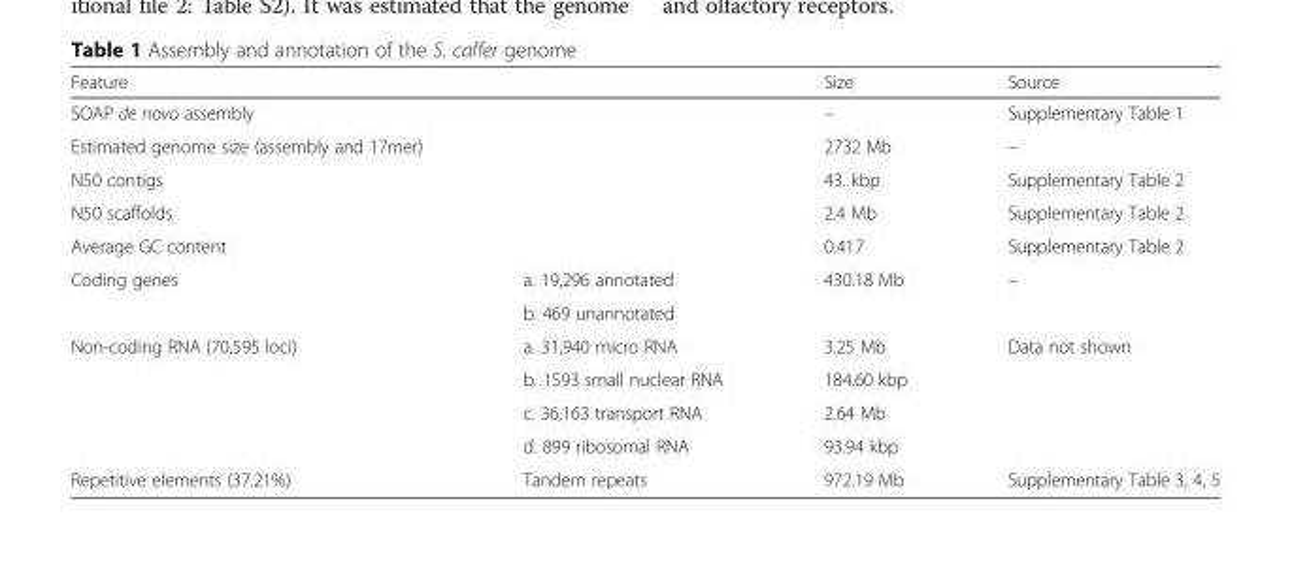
<table><thead><tr><td>Feature</td><td></td><td>Size</td><td>Source</td></tr></thead><tbody><tr><td>SOAP de novo assembly</td><td></td><td>–</td><td>Supplementary Table 1</td></tr><tr><td>Estimated genome size (assembly and 17mer)</td><td></td><td>2732 Mb</td><td>–</td></tr><tr><td>N50 contigs</td><td></td><td>43. kbp</td><td>Supplementary Table 2</td></tr><tr><td>N50 scaffolds</td><td></td><td>2.4 Mb</td><td>Supplementary Table 2</td></tr><tr><td>Average GC content</td><td></td><td>0.417</td><td>Supplementary Table 2</td></tr><tr><td rowspan="2">Coding genes</td><td>a. 19,296 annotated</td><td>430.18 Mb</td><td>–</td></tr><tr><td>b. 469 unannotated</td><td></td><td></td></tr><tr><td rowspan="4">Non-coding RNA (70,595 loci)</td><td>a. 31,940 micro RNA</td><td>3.25 Mb</td><td>Data not shown</td></tr><tr><td>b. 1593 small nuclear RNA</td><td>184.60 kbp</td><td></td></tr><tr><td>c. 36,163 transport RNA</td><td>2.64 Mb</td><td></td></tr><tr><td>d. 899 ribosomal RNA</td><td>93.94 kbp</td><td></td></tr><tr><td>Repetitive elements (37.21%)</td><td>Tandem repeats</td><td>972.19 Mb</td><td>Supplementary Table 3, 4, 5</td></tr></tbody></table>